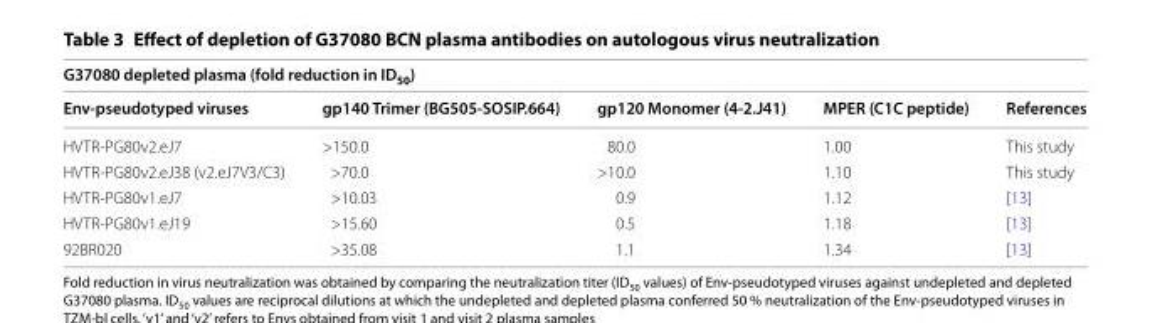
<table><thead><tr><td colspan="5">G37080 depleted plasma (fold reduction in ID<sub>50</sub>)</td></tr><tr><td>Env‑pseudotyped viruses</td><td>gp140 Trimer (BG505‑SOSIP.664)</td><td>gp120 Monomer (4‑2.J41)</td><td>MPER (C1C peptide)</td><td>References</td></tr></thead><tbody><tr><td>HVTR-PG80v2.eJ7</td><td>&gt;150.0</td><td>80.0</td><td>1.00</td><td>This study</td></tr><tr><td>HVTR-PG80v2.eJ38 (v2.eJ7V3/C3)</td><td>&gt;70.0</td><td>&gt;10.0</td><td>1.10</td><td>This study</td></tr><tr><td>HVTR-PG80v1.eJ7</td><td>&gt;10.03</td><td>0.9</td><td>1.12</td><td>[13]</td></tr><tr><td>HVTR-PG80v1.eJ19</td><td>&gt;15.60</td><td>0.5</td><td>1.18</td><td>[13]</td></tr><tr><td>92BR020</td><td>&gt;35.08</td><td>1.1</td><td>1.34</td><td>[13]</td></tr></tbody></table>